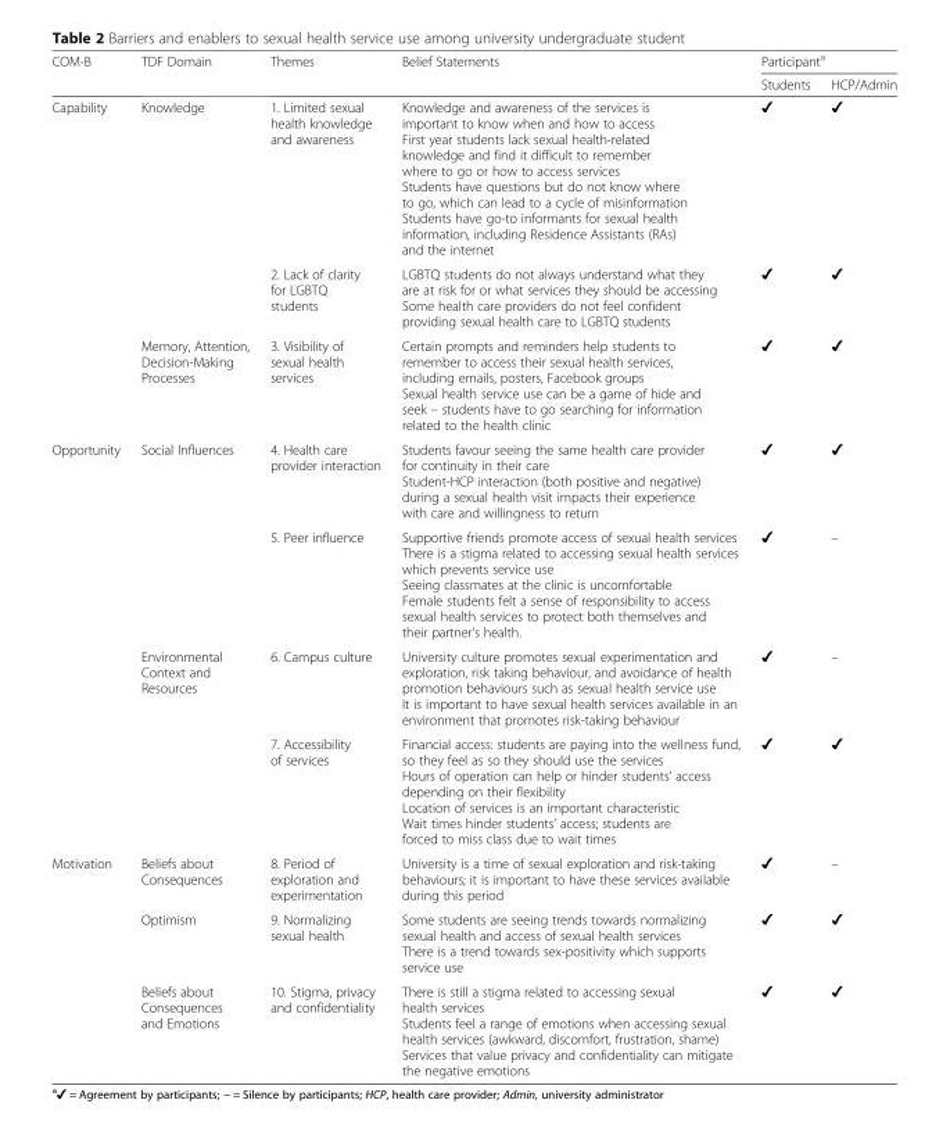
<table><thead><tr><td rowspan="2">COM-B</td><td rowspan="2">TDF Domain</td><td rowspan="2">Themes</td><td rowspan="2">Belief Statements</td><td colspan="2">Participant<sup>a</sup></td></tr><tr><td>Students</td><td>HCP/Admin</td></tr></thead><tbody><tr><td rowspan="3">Capability</td><td rowspan="2">Knowledge</td><td>1. Limited sexual health knowledge and awareness</td><td>Knowledge and awareness of the services is important to know when and how to access First year students lack sexual health-related knowledge and find it difficult to remember where to go or how to access services Students have questions but do not know where to go, which can lead to a cycle of misinformation Students have go-to informants for sexual health information, including Residence Assistants (RAs) and the internet</td><td>✔</td><td>✔</td></tr><tr><td>2. Lack of clarity for LGBTQ students</td><td>LGBTQ students do not always understand what they are at risk for or what services they should be accessing Some health care providers do not feel confident providing sexual health care to LGBTQ students</td><td>✔</td><td>✔</td></tr><tr><td>Memory, Attention, Decision-Making Processes</td><td>3. Visibility of sexual health services</td><td>Certain prompts and reminders help students to remember to access their sexual health services, including emails, posters, Facebook groups Sexual health service use can be a game of hide and seek – students have to go searching for information related to the health clinic</td><td>✔</td><td>✔</td></tr><tr><td rowspan="4">Opportunity</td><td rowspan="2">Social Influences</td><td>4. Health care provider interaction</td><td>Students favour seeing the same health care provider for continuity in their care Student-HCP interaction (both positive and negative) during a sexual health visit impacts their experience with care and willingness to return</td><td>✔</td><td>✔</td></tr><tr><td>5. Peer influence</td><td>Supportive friends promote access of sexual health services There is a stigma related to accessing sexual health services which prevents service use Seeing classmates at the clinic is uncomfortable Female students felt a sense of responsibility to access sexual health services to protect both themselves and their partner’s health.</td><td>✔</td><td>–</td></tr><tr><td rowspan="2">Environmental Context and Resources</td><td>6. Campus culture</td><td>University culture promotes sexual experimentation and exploration, risk taking behaviour, and avoidance of health promotion behaviours such as sexual health service use It is important to have sexual health services available in an environment that promotes risk-taking behaviour</td><td>✔</td><td>–</td></tr><tr><td>7. Accessibility of services</td><td>Financial access: students are paying into the wellness fund, so they feel as so they should use the services Hours of operation can help or hinder students’ access depending on their flexibility Location of services is an important characteristic Wait times hinder students’ access; students are forced to miss class due to wait times</td><td>✔</td><td>✔</td></tr><tr><td rowspan="3">Motivation</td><td>Beliefs about Consequences</td><td>8. Period of exploration and experimentation</td><td>University is a time of sexual exploration and risk-taking behaviours; it is important to have these services available during this period</td><td>✔</td><td>–</td></tr><tr><td>Optimism</td><td>9. Normalizing sexual health</td><td>Some students are seeing trends towards normalizing sexual health and access of sexual health services There is a trend towards sex-positivity which supports service use</td><td>✔</td><td>✔</td></tr><tr><td>Beliefs about Consequences and Emotions</td><td>10. Stigma, privacy and confidentiality</td><td>There is still a stigma related to accessing sexual health services Students feel a range of emotions when accessing sexual health services (awkward, discomfort, frustration, shame) Services that value privacy and confidentiality can mitigate the negative emotions</td><td>✔</td><td>✔</td></tr></tbody></table>